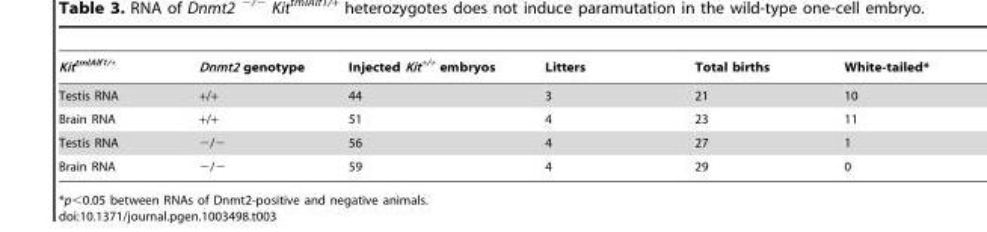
<table><thead><tr><td>Kit<sup>tmlAlf1/+</sup></td><td>Dnmt2 genotype</td><td>Injected Kit<sup>+/+</sup> embryos</td><td>Litters</td><td>Total births</td><td>White-tailed*</td></tr></thead><tbody><tr><td>Testis RNA</td><td>+/+</td><td>44</td><td>3</td><td>21</td><td>10</td></tr><tr><td>Brain RNA</td><td>+/+</td><td>51</td><td>4</td><td>23</td><td>11</td></tr><tr><td>Testis RNA</td><td>−/−</td><td>56</td><td>4</td><td>27</td><td>1</td></tr><tr><td>Brain RNA</td><td>−/−</td><td>59</td><td>4</td><td>29</td><td>0</td></tr></tbody></table>